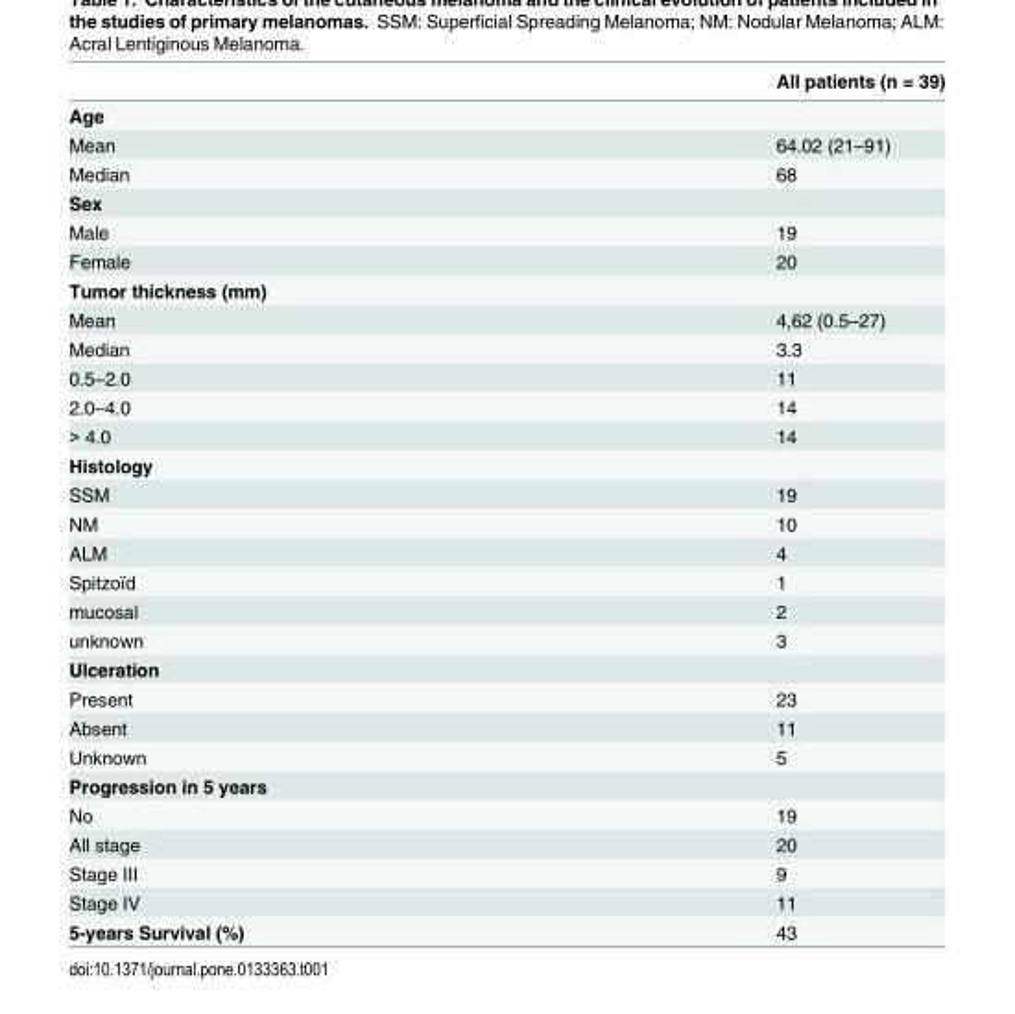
<table><thead><tr><td></td><td>All patients (n = 39)</td></tr></thead><tbody><tr><td colspan="2">Age</td></tr><tr><td>Mean</td><td>64.02 (21–91)</td></tr><tr><td>Median</td><td>68</td></tr><tr><td colspan="2">Sex</td></tr><tr><td>Male</td><td>19</td></tr><tr><td>Female</td><td>20</td></tr><tr><td colspan="2">Tumor thickness (mm)</td></tr><tr><td>Mean</td><td>4,62 (0.5–27)</td></tr><tr><td>Median</td><td>3.3</td></tr><tr><td>0.5–2.0</td><td>11</td></tr><tr><td>2.0–4.0</td><td>14</td></tr><tr><td>&gt; 4.0</td><td>14</td></tr><tr><td colspan="2">Histology</td></tr><tr><td>SSM</td><td>19</td></tr><tr><td>NM</td><td>10</td></tr><tr><td>ALM</td><td>4</td></tr><tr><td>Spitzoïd</td><td>1</td></tr><tr><td>mucosal</td><td>2</td></tr><tr><td>unknown</td><td>3</td></tr><tr><td colspan="2">Ulceration</td></tr><tr><td>Present</td><td>23</td></tr><tr><td>Absent</td><td>11</td></tr><tr><td>Unknown</td><td>5</td></tr><tr><td colspan="2">Progression in 5 years</td></tr><tr><td>No</td><td>19</td></tr><tr><td>All stage</td><td>20</td></tr><tr><td>Stage III</td><td>9</td></tr><tr><td>Stage IV</td><td>11</td></tr><tr><td>5-years Survival (%)</td><td>43</td></tr></tbody></table>